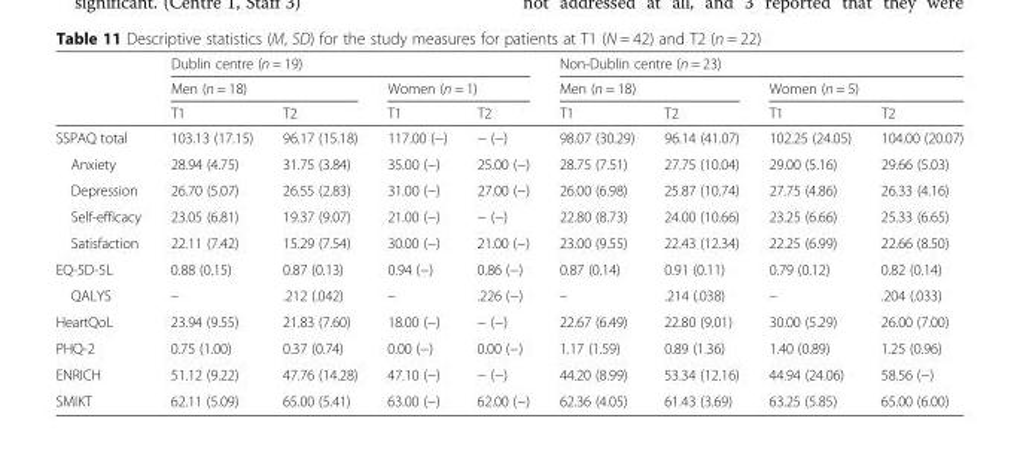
<table><thead><tr><td rowspan="3"></td><td colspan="4">Dublin centre (n = 19)</td><td colspan="4">Non-Dublin centre (n = 23)</td></tr><tr><td colspan="2">Men (n = 18)</td><td colspan="2">Women (n = 1)</td><td colspan="2">Men (n = 18)</td><td colspan="2">Women (n = 5)</td></tr><tr><td>T1</td><td>T2</td><td>T1</td><td>T2</td><td>T1</td><td>T2</td><td>T1</td><td>T2</td></tr></thead><tbody><tr><td>SSPAQ total</td><td>103.13 (17.15)</td><td>96.17 (15.18)</td><td>117.00 (−)</td><td>− (−)</td><td>98.07 (30.29)</td><td>96.14 (41.07)</td><td>102.25 (24.05)</td><td>104.00 (20.07)</td></tr><tr><td>Anxiety</td><td>28.94 (4.75)</td><td>31.75 (3.84)</td><td>35.00 (−)</td><td>25.00 (−)</td><td>28.75 (7.51)</td><td>27.75 (10.04)</td><td>29.00 (5.16)</td><td>29.66 (5.03)</td></tr><tr><td>Depression</td><td>26.70 (5.07)</td><td>26.55 (2.83)</td><td>31.00 (−)</td><td>27.00 (−)</td><td>26.00 (6.98)</td><td>25.87 (10.74)</td><td>27.75 (4.86)</td><td>26.33 (4.16)</td></tr><tr><td>Self-efficacy</td><td>23.05 (6.81)</td><td>19.37 (9.07)</td><td>21.00 (−)</td><td>− (−)</td><td>22.80 (8.73)</td><td>24.00 (10.66)</td><td>23.25 (6.66)</td><td>25.33 (6.65)</td></tr><tr><td>Satisfaction</td><td>22.11 (7.42)</td><td>15.29 (7.54)</td><td>30.00 (−)</td><td>21.00 (−)</td><td>23.00 (9.55)</td><td>22.43 (12.34)</td><td>22.25 (6.99)</td><td>22.66 (8.50)</td></tr><tr><td>EQ-5D-5L</td><td>0.88 (0.15)</td><td>0.87 (0.13)</td><td>0.94 (−)</td><td>0.86 (−)</td><td>0.87 (0.14)</td><td>0.91 (0.11)</td><td>0.79 (0.12)</td><td>0.82 (0.14)</td></tr><tr><td>QALYS</td><td>–</td><td>.212 (.042)</td><td>–</td><td>.226 (−)</td><td>–</td><td>.214 (.038)</td><td>–</td><td>.204 (.033)</td></tr><tr><td>HeartQoL</td><td>23.94 (9.55)</td><td>21.83 (7.60)</td><td>18.00 (−)</td><td>− (−)</td><td>22.67 (6.49)</td><td>22.80 (9.01)</td><td>30.00 (5.29)</td><td>26.00 (7.00)</td></tr><tr><td>PHQ-2</td><td>0.75 (1.00)</td><td>0.37 (0.74)</td><td>0.00 (−)</td><td>0.00 (−)</td><td>1.17 (1.59)</td><td>0.89 (1.36)</td><td>1.40 (0.89)</td><td>1.25 (0.96)</td></tr><tr><td>ENRICH</td><td>51.12 (9.22)</td><td>47.76 (14.28)</td><td>47.10 (−)</td><td>− (−)</td><td>44.20 (8.99)</td><td>53.34 (12.16)</td><td>44.94 (24.06)</td><td>58.56 (−)</td></tr><tr><td>SMIKT</td><td>62.11 (5.09)</td><td>65.00 (5.41)</td><td>63.00 (−)</td><td>62.00 (−)</td><td>62.36 (4.05)</td><td>61.43 (3.69)</td><td>63.25 (5.85)</td><td>65.00 (6.00)</td></tr></tbody></table>